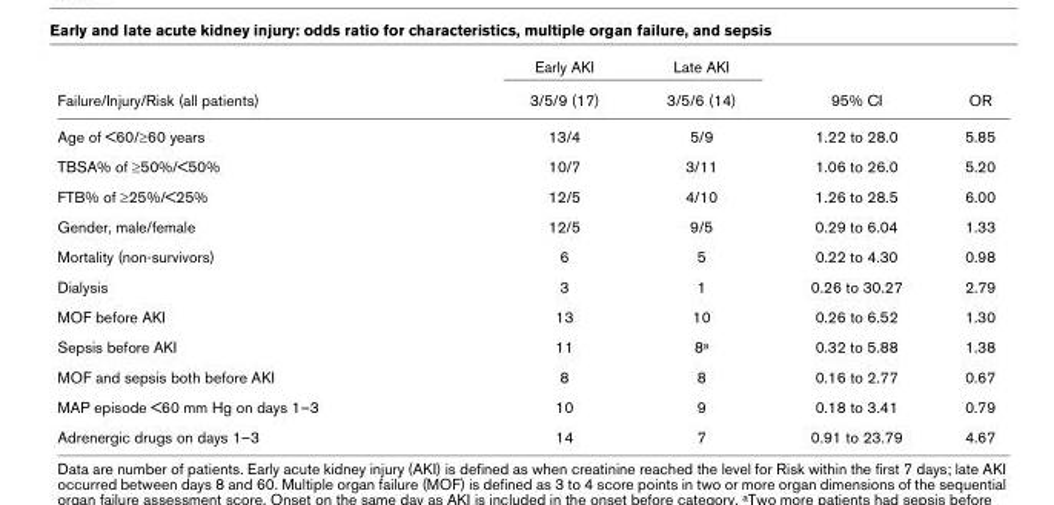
<table><thead><tr><td rowspan="2">Failure/Injury/Risk (all patients)</td><td rowspan="2">Early AKI 3/5/9 (17)</td><td rowspan="2">Late AKI 3/5/6 (14)</td><td rowspan="2">95% CI</td><td rowspan="2">OR</td></tr><tr></tr></thead><tbody><tr><td>Age of &lt;60/≥60 years</td><td>13/4</td><td>5/9</td><td>1.22 to 28.0</td><td>5.85</td></tr><tr><td>TBSA% of ≥50%/&lt;50%</td><td>10/7</td><td>3/11</td><td>1.06 to 26.0</td><td>5.20</td></tr><tr><td>FTB% of ≥25%/&lt;25%</td><td>12/5</td><td>4/10</td><td>1.26 to 28.5</td><td>6.00</td></tr><tr><td>Gender, male/female</td><td>12/5</td><td>9/5</td><td>0.29 to 6.04</td><td>1.33</td></tr><tr><td>Mortality (non-survivors)</td><td>6</td><td>5</td><td>0.22 to 4.30</td><td>0.98</td></tr><tr><td>Dialysis</td><td>3</td><td>1</td><td>0.26 to 30.27</td><td>2.79</td></tr><tr><td>MOF before AKI</td><td>13</td><td>10</td><td>0.26 to 6.52</td><td>1.30</td></tr><tr><td>Sepsis before AKI</td><td>11</td><td>8<sup>a</sup></td><td>0.32 to 5.88</td><td>1.38</td></tr><tr><td>MOF and sepsis both before AKI</td><td>8</td><td>8</td><td>0.16 to 2.77</td><td>0.67</td></tr><tr><td>MAP episode &lt;60 mm Hg on days 1–3</td><td>10</td><td>9</td><td>0.18 to 3.41</td><td>0.79</td></tr><tr><td>Adrenergic drugs on days 1–3</td><td>14</td><td>7</td><td>0.91 to 23.79</td><td>4.67</td></tr></tbody></table>